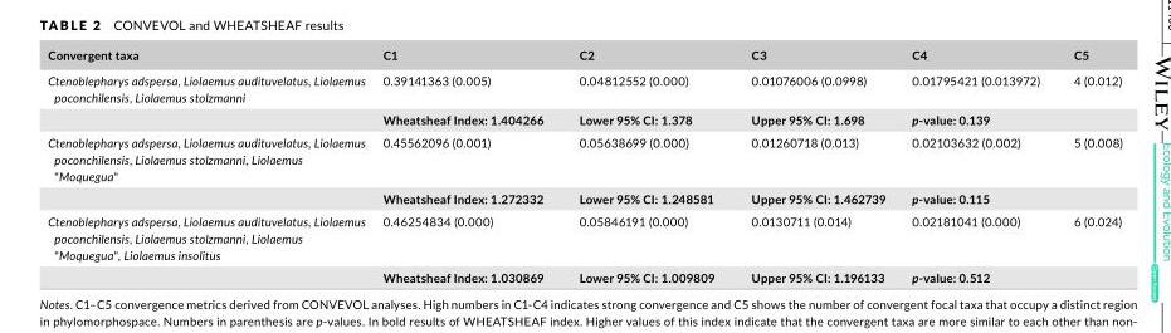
<table><thead><tr><td>Convergent taxa</td><td>C1</td><td>C2</td><td>C3</td><td>C4</td><td>C5</td></tr></thead><tbody><tr><td rowspan="2">Ctenoblepharys adspersa, Liolaemus audituvelatus, Liolaemus poconchilensis, Liolaemus stolzmanni</td><td>0.39141363 (0.005)</td><td>0.04812552 (0.000)</td><td>0.01076006 (0.0998)</td><td>0.01795421 (0.013972)</td><td>4 (0.012)</td></tr><tr><td>Wheatsheaf Index: 1.404266</td><td>Lower 95% CI: 1.378</td><td>Upper 95% CI: 1.698</td><td>p‐value: 0.139</td><td></td></tr><tr><td rowspan="2">Ctenoblepharys adspersa, Liolaemus audituvelatus, Liolaemus poconchilensis, Liolaemus stolzmanni, Liolaemus &quot;Moquegua&quot;</td><td>0.45562096 (0.001)</td><td>0.05638699 (0.000)</td><td>0.01260718 (0.013)</td><td>0.02103632 (0.002)</td><td>5 (0.008)</td></tr><tr><td>Wheatsheaf Index: 1.272332</td><td>Lower 95% CI: 1.248581</td><td>Upper 95% CI: 1.462739</td><td>p‐value: 0.115</td><td></td></tr><tr><td rowspan="2">Ctenoblepharys adspersa, Liolaemus audituvelatus, Liolaemus poconchilensis, Liolaemus stolzmanni, Liolaemus &quot;Moquegua&quot;, Liolaemus insolitus</td><td>0.46254834 (0.000)</td><td>0.05846191 (0.000)</td><td>0.0130711 (0.014)</td><td>0.02181041 (0.000)</td><td>6 (0.024)</td></tr><tr><td>Wheatsheaf Index: 1.030869</td><td>Lower 95% CI: 1.009809</td><td>Upper 95% CI: 1.196133</td><td>p‐value: 0.512</td><td></td></tr></tbody></table>